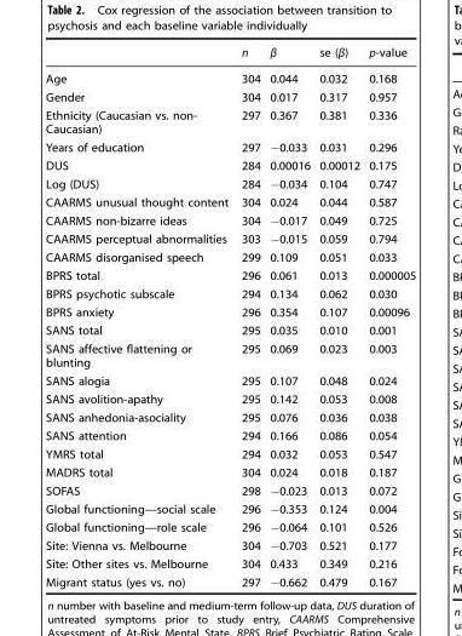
<table><thead><tr><td></td><td>n</td><td>β</td><td>se (β)</td><td>p-value</td></tr></thead><tbody><tr><td>Age</td><td>304</td><td>0.044</td><td>0.032</td><td>0.168</td></tr><tr><td>Gender</td><td>304</td><td>0.017</td><td>0.317</td><td>0.957</td></tr><tr><td>Ethnicity (Caucasian vs. non- Caucasian)</td><td>297</td><td>0.367</td><td>0.381</td><td>0.336</td></tr><tr><td>Years of education</td><td>297</td><td>−0.033</td><td>0.031</td><td>0.296</td></tr><tr><td>DUS</td><td>284</td><td>0.00016</td><td>0.00012</td><td>0.175</td></tr><tr><td>Log (DUS)</td><td>284</td><td>−0.034</td><td>0.104</td><td>0.747</td></tr><tr><td>CAARMS unusual thought content</td><td>304</td><td>0.024</td><td>0.044</td><td>0.587</td></tr><tr><td>CAARMS non-bizarre ideas</td><td>304</td><td>−0.017</td><td>0.049</td><td>0.725</td></tr><tr><td>CAARMS perceptual abnormalities</td><td>303</td><td>−0.015</td><td>0.059</td><td>0.794</td></tr><tr><td>CAARMS disorganised speech</td><td>299</td><td>0.109</td><td>0.051</td><td>0.033</td></tr><tr><td>BPRS total</td><td>296</td><td>0.061</td><td>0.013</td><td>0.000005</td></tr><tr><td>BPRS psychotic subscale</td><td>294</td><td>0.134</td><td>0.062</td><td>0.030</td></tr><tr><td>BPRS anxiety</td><td>296</td><td>0.354</td><td>0.107</td><td>0.00096</td></tr><tr><td>SANS total</td><td>295</td><td>0.035</td><td>0.010</td><td>0.001</td></tr><tr><td>SANS affective flattening or blunting</td><td>295</td><td>0.069</td><td>0.023</td><td>0.003</td></tr><tr><td>SANS alogia</td><td>295</td><td>0.107</td><td>0.048</td><td>0.024</td></tr><tr><td>SANS avolition-apathy</td><td>295</td><td>0.142</td><td>0.053</td><td>0.008</td></tr><tr><td>SANS anhedonia-asociality</td><td>295</td><td>0.076</td><td>0.036</td><td>0.038</td></tr><tr><td>SANS attention</td><td>294</td><td>0.166</td><td>0.086</td><td>0.054</td></tr><tr><td>YMRS total</td><td>294</td><td>0.032</td><td>0.053</td><td>0.547</td></tr><tr><td>MADRS total</td><td>304</td><td>0.024</td><td>0.018</td><td>0.187</td></tr><tr><td>SOFAS</td><td>298</td><td>−0.023</td><td>0.013</td><td>0.072</td></tr><tr><td>Global functioning—social scale</td><td>296</td><td>−0.353</td><td>0.124</td><td>0.004</td></tr><tr><td>Global functioning—role scale</td><td>296</td><td>−0.064</td><td>0.101</td><td>0.526</td></tr><tr><td>Site: Vienna vs. Melbourne</td><td>304</td><td>−0.703</td><td>0.521</td><td>0.177</td></tr><tr><td>Site: Other sites vs. Melbourne</td><td>304</td><td>0.433</td><td>0.349</td><td>0.216</td></tr><tr><td>Migrant status (yes vs. no)</td><td>297</td><td>−0.662</td><td>0.479</td><td>0.167</td></tr></tbody></table>